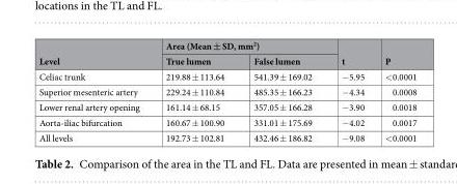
<table><thead><tr><td rowspan="2">Level</td><td colspan="2">Area (Mean ± SD, mm<sup>2</sup>)</td><td rowspan="2">t</td><td rowspan="2">P</td></tr><tr><td>True lumen</td><td>False lumen</td></tr></thead><tbody><tr><td>Celiac trunk</td><td>219.88 ± 113.64</td><td>541.39 ± 169.02</td><td>−5.95</td><td>&lt;0.0001</td></tr><tr><td>Superior mesenteric artery</td><td>229.24 ± 110.84</td><td>485.35 ± 166.23</td><td>−4.34</td><td>0.0008</td></tr><tr><td>Lower renal artery opening</td><td>161.14 ± 68.15</td><td>357.05 ± 166.28</td><td>−3.90</td><td>0.0018</td></tr><tr><td>Aorta-iliac bifurcation</td><td>160.67 ± 100.90</td><td>331.01 ± 175.69</td><td>−4.02</td><td>0.0017</td></tr><tr><td>All levels</td><td>192.73 ± 102.81</td><td>432.46 ± 186.82</td><td>−9.08</td><td>&lt;0.0001</td></tr></tbody></table>